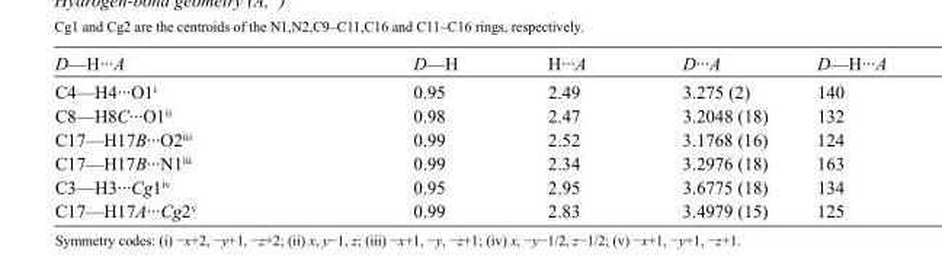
<table><tbody><tr><td>D—H···A</td><td>D—H</td><td>H···A</td><td>D···A</td><td>D—H···A</td></tr><tr><td>C4—H4···O1<sup>i</sup></td><td>0.95</td><td>2.49</td><td>3.275 (2)</td><td>140</td></tr><tr><td>C8—H8C···O1<sup>ii</sup></td><td>0.98</td><td>2.47</td><td>3.2048 (18)</td><td>132</td></tr><tr><td>C17—H17B···O2<sup>iii</sup></td><td>0.99</td><td>2.52</td><td>3.1768 (16)</td><td>124</td></tr><tr><td>C17—H17B···N1<sup>iii</sup></td><td>0.99</td><td>2.34</td><td>3.2976 (18)</td><td>163</td></tr><tr><td>C3—H3···Cg1<sup>iv</sup></td><td>0.95</td><td>2.95</td><td>3.6775 (18)</td><td>134</td></tr><tr><td>C17—H17A···Cg2<sup>v</sup></td><td>0.99</td><td>2.83</td><td>3.4979 (15)</td><td>125</td></tr></tbody></table>